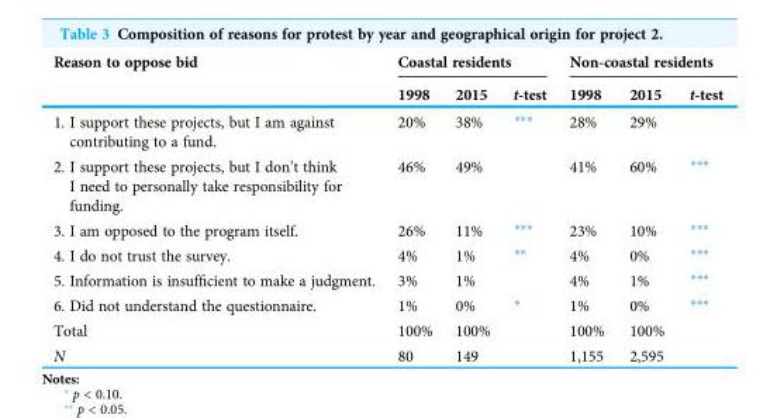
<table><thead><tr><td rowspan="2">Reason to oppose bid</td><td colspan="3">Coastal residents</td><td colspan="3">Non-coastal residents</td></tr><tr><td>1998</td><td>2015</td><td>t-test</td><td>1998</td><td>2015</td><td>t-test</td></tr></thead><tbody><tr><td>1. I support these projects, but I am against contributing to a fund.</td><td>20%</td><td>38%</td><td>***</td><td>28%</td><td>29%</td><td></td></tr><tr><td>2. I support these projects, but I don’t think I need to personally take responsibility for funding.</td><td>46%</td><td>49%</td><td></td><td>41%</td><td>60%</td><td>***</td></tr><tr><td>3. I am opposed to the program itself.</td><td>26%</td><td>11%</td><td>***</td><td>23%</td><td>10%</td><td>***</td></tr><tr><td>4. I do not trust the survey.</td><td>4%</td><td>1%</td><td>**</td><td>4%</td><td>0%</td><td>***</td></tr><tr><td>5. Information is insufficient to make a judgment.</td><td>3%</td><td>1%</td><td></td><td>4%</td><td>1%</td><td>***</td></tr><tr><td>6. Did not understand the questionnaire.</td><td>1%</td><td>0%</td><td>*</td><td>1%</td><td>0%</td><td>***</td></tr><tr><td>Total</td><td>100%</td><td>100%</td><td></td><td>100%</td><td>100%</td><td></td></tr><tr><td>N</td><td>80</td><td>149</td><td></td><td>1,155</td><td>2,595</td><td></td></tr></tbody></table>